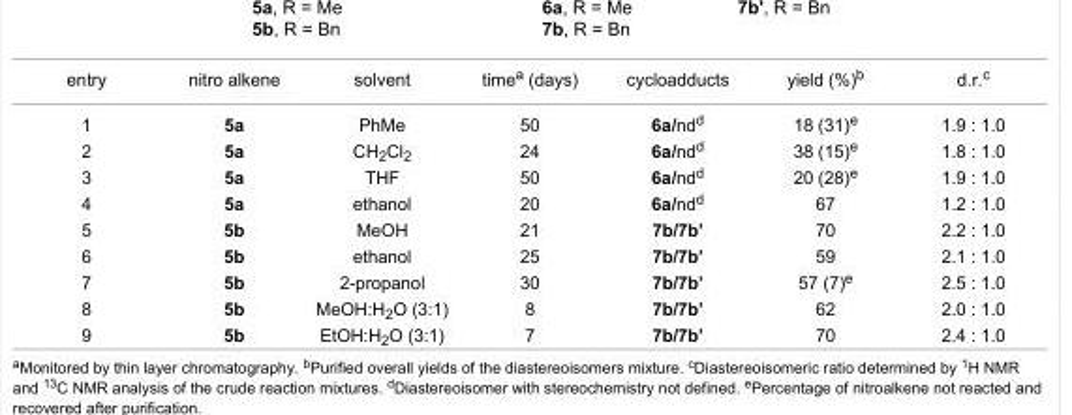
<table><tbody><tr><td>entry</td><td>nitro alkene</td><td>solvent</td><td>time<sup>a</sup> (days)</td><td>cycloadducts</td><td>yield (%)<sup>b</sup></td><td>d.r.<sup>c</sup></td></tr><tr><td>1</td><td>5a</td><td>PhMe</td><td>50</td><td>6a/nd<sup>d</sup></td><td>18 (31)<sup>e</sup></td><td>1.9 : 1.0</td></tr><tr><td>2</td><td>5a</td><td>CH<sub>2</sub>Cl<sub>2</sub></td><td>24</td><td>6a/nd<sup>d</sup></td><td>38 (15)<sup>e</sup></td><td>1.8 : 1.0</td></tr><tr><td>3</td><td>5a</td><td>THF</td><td>50</td><td>6a/nd<sup>d</sup></td><td>20 (28)<sup>e</sup></td><td>1.9 : 1.0</td></tr><tr><td>4</td><td>5a</td><td>ethanol</td><td>20</td><td>6a/nd<sup>d</sup></td><td>67</td><td>1.2 : 1.0</td></tr><tr><td>5</td><td>5b</td><td>MeOH</td><td>21</td><td>7b/7b’</td><td>70</td><td>2.2 : 1.0</td></tr><tr><td>6</td><td>5b</td><td>ethanol</td><td>25</td><td>7b/7b’</td><td>59</td><td>2.1 : 1.0</td></tr><tr><td>7</td><td>5b</td><td>2-propanol</td><td>30</td><td>7b/7b’</td><td>57 (7)<sup>e</sup></td><td>2.5 : 1.0</td></tr><tr><td>8</td><td>5b</td><td>MeOH:H<sub>2</sub>O (3:1)</td><td>8</td><td>7b/7b’</td><td>62</td><td>2.0 : 1.0</td></tr><tr><td>9</td><td>5b</td><td>EtOH:H<sub>2</sub>O (3:1)</td><td>7</td><td>7b/7b’</td><td>70</td><td>2.4 : 1.0</td></tr></tbody></table>